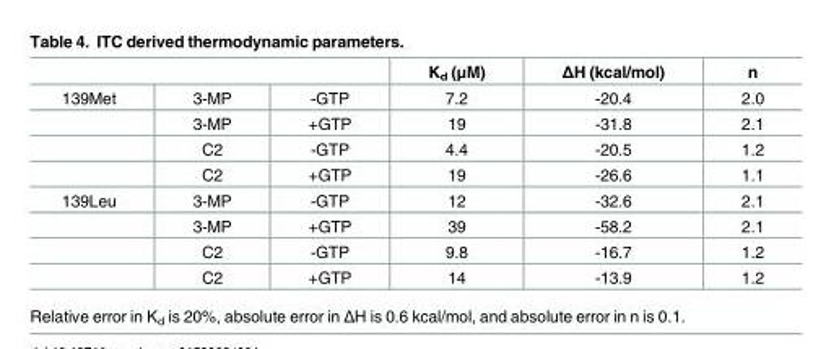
<table><thead><tr><td></td><td></td><td></td><td>K<sub>d</sub> (μM)</td><td>ΔH (kcal/mol)</td><td>n</td></tr></thead><tbody><tr><td rowspan="4">139Met</td><td>3-MP</td><td>-GTP</td><td>7.2</td><td>-20.4</td><td>2.0</td></tr><tr><td>3-MP</td><td>+GTP</td><td>19</td><td>-31.8</td><td>2.1</td></tr><tr><td>C2</td><td>-GTP</td><td>4.4</td><td>-20.5</td><td>1.2</td></tr><tr><td>C2</td><td>+GTP</td><td>19</td><td>-26.6</td><td>1.1</td></tr><tr><td rowspan="4">139Leu</td><td>3-MP</td><td>-GTP</td><td>12</td><td>-32.6</td><td>2.1</td></tr><tr><td>3-MP</td><td>+GTP</td><td>39</td><td>-58.2</td><td>2.1</td></tr><tr><td>C2</td><td>-GTP</td><td>9.8</td><td>-16.7</td><td>1.2</td></tr><tr><td>C2</td><td>+GTP</td><td>14</td><td>-13.9</td><td>1.2</td></tr></tbody></table>